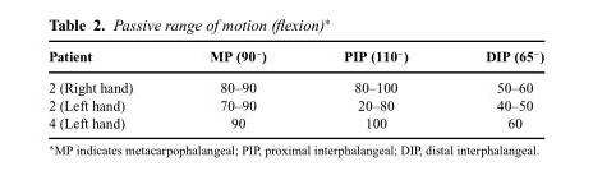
<table><thead><tr><td>Patient</td><td>MP (90<sup>–</sup>)</td><td>PIP (110<sup>–</sup>)</td><td>DIP (65<sup>–</sup>)</td></tr></thead><tbody><tr><td>2 (Right hand)</td><td>80–90</td><td>80–100</td><td>50–60</td></tr><tr><td>2 (Left hand)</td><td>70–90</td><td>20–80</td><td>40–50</td></tr><tr><td>4 (Left hand)</td><td>90</td><td>100</td><td>60</td></tr></tbody></table>